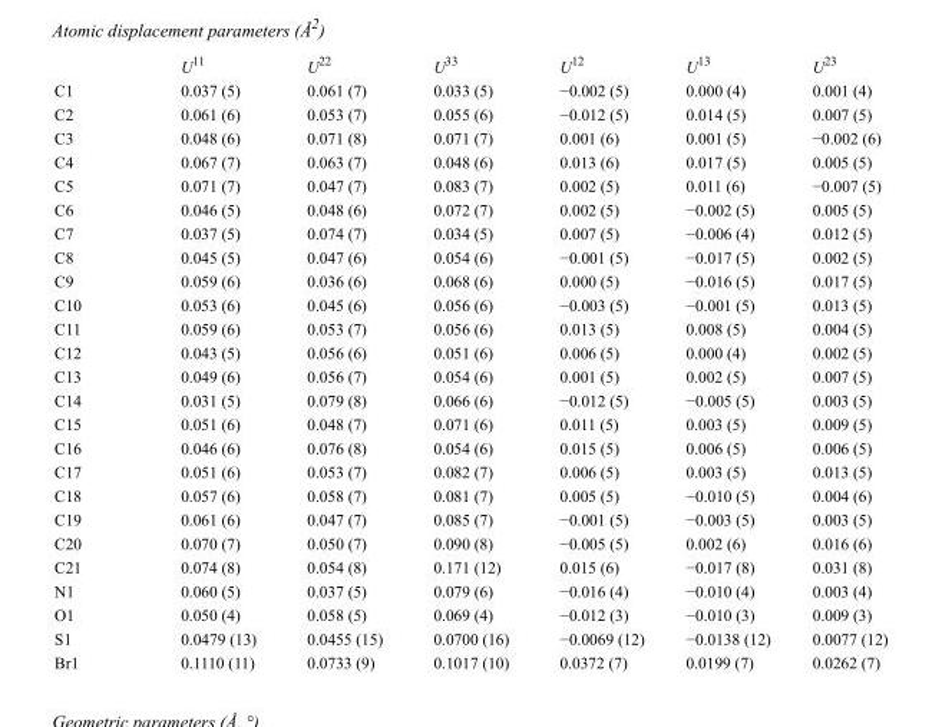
<table><thead><tr><td></td><td>U<sup>11</sup></td><td>U<sup>22</sup></td><td>U<sup>33</sup></td><td>U<sup>12</sup></td><td>U<sup>13</sup></td><td>U<sup>23</sup></td></tr></thead><tbody><tr><td>C1</td><td>0.037 (5)</td><td>0.061 (7)</td><td>0.033 (5)</td><td>−0.002 (5)</td><td>0.000 (4)</td><td>0.001 (4)</td></tr><tr><td>C2</td><td>0.061 (6)</td><td>0.053 (7)</td><td>0.055 (6)</td><td>−0.012 (5)</td><td>0.014 (5)</td><td>0.007 (5)</td></tr><tr><td>C3</td><td>0.048 (6)</td><td>0.071 (8)</td><td>0.071 (7)</td><td>0.001 (6)</td><td>0.001 (5)</td><td>−0.002 (6)</td></tr><tr><td>C4</td><td>0.067 (7)</td><td>0.063 (7)</td><td>0.048 (6)</td><td>0.013 (6)</td><td>0.017 (5)</td><td>0.005 (5)</td></tr><tr><td>C5</td><td>0.071 (7)</td><td>0.047 (7)</td><td>0.083 (7)</td><td>0.002 (5)</td><td>0.011 (6)</td><td>−0.007 (5)</td></tr><tr><td>C6</td><td>0.046 (5)</td><td>0.048 (6)</td><td>0.072 (7)</td><td>0.002 (5)</td><td>−0.002 (5)</td><td>0.005 (5)</td></tr><tr><td>C7</td><td>0.037 (5)</td><td>0.074 (7)</td><td>0.034 (5)</td><td>0.007 (5)</td><td>−0.006 (4)</td><td>0.012 (5)</td></tr><tr><td>C8</td><td>0.045 (5)</td><td>0.047 (6)</td><td>0.054 (6)</td><td>−0.001 (5)</td><td>−0.017 (5)</td><td>0.002 (5)</td></tr><tr><td>C9</td><td>0.059 (6)</td><td>0.036 (6)</td><td>0.068 (6)</td><td>0.000 (5)</td><td>−0.016 (5)</td><td>0.017 (5)</td></tr><tr><td>C10</td><td>0.053 (6)</td><td>0.045 (6)</td><td>0.056 (6)</td><td>−0.003 (5)</td><td>−0.001 (5)</td><td>0.013 (5)</td></tr><tr><td>C11</td><td>0.059 (6)</td><td>0.053 (7)</td><td>0.056 (6)</td><td>0.013 (5)</td><td>0.008 (5)</td><td>0.004 (5)</td></tr><tr><td>C12</td><td>0.043 (5)</td><td>0.056 (6)</td><td>0.051 (6)</td><td>0.006 (5)</td><td>0.000 (4)</td><td>0.002 (5)</td></tr><tr><td>C13</td><td>0.049 (6)</td><td>0.056 (7)</td><td>0.054 (6)</td><td>0.001 (5)</td><td>0.002 (5)</td><td>0.007 (5)</td></tr><tr><td>C14</td><td>0.031 (5)</td><td>0.079 (8)</td><td>0.066 (6)</td><td>−0.012 (5)</td><td>−0.005 (5)</td><td>0.003 (5)</td></tr><tr><td>C15</td><td>0.051 (6)</td><td>0.048 (7)</td><td>0.071 (6)</td><td>0.011 (5)</td><td>0.003 (5)</td><td>0.009 (5)</td></tr><tr><td>C16</td><td>0.046 (6)</td><td>0.076 (8)</td><td>0.054 (6)</td><td>0.015 (5)</td><td>0.006 (5)</td><td>0.006 (5)</td></tr><tr><td>C17</td><td>0.051 (6)</td><td>0.053 (7)</td><td>0.082 (7)</td><td>0.006 (5)</td><td>0.003 (5)</td><td>0.013 (5)</td></tr><tr><td>C18</td><td>0.057 (6)</td><td>0.058 (7)</td><td>0.081 (7)</td><td>0.005 (5)</td><td>−0.010 (5)</td><td>0.004 (6)</td></tr><tr><td>C19</td><td>0.061 (6)</td><td>0.047 (7)</td><td>0.085 (7)</td><td>−0.001 (5)</td><td>−0.003 (5)</td><td>0.003 (5)</td></tr><tr><td>C20</td><td>0.070 (7)</td><td>0.050 (7)</td><td>0.090 (8)</td><td>−0.005 (5)</td><td>0.002 (6)</td><td>0.016 (6)</td></tr><tr><td>C21</td><td>0.074 (8)</td><td>0.054 (8)</td><td>0.171 (12)</td><td>0.015 (6)</td><td>−0.017 (8)</td><td>0.031 (8)</td></tr><tr><td>N1</td><td>0.060 (5)</td><td>0.037 (5)</td><td>0.079 (6)</td><td>−0.016 (4)</td><td>−0.010 (4)</td><td>0.003 (4)</td></tr><tr><td>O1</td><td>0.050 (4)</td><td>0.058 (5)</td><td>0.069 (4)</td><td>−0.012 (3)</td><td>−0.010 (3)</td><td>0.009 (3)</td></tr><tr><td>S1</td><td>0.0479 (13)</td><td>0.0455 (15)</td><td>0.0700 (16)</td><td>−0.0069 (12)</td><td>−0.0138 (12)</td><td>0.0077 (12)</td></tr><tr><td>Br1</td><td>0.1110 (11)</td><td>0.0733 (9)</td><td>0.1017 (10)</td><td>0.0372 (7)</td><td>0.0199 (7)</td><td>0.0262 (7)</td></tr></tbody></table>